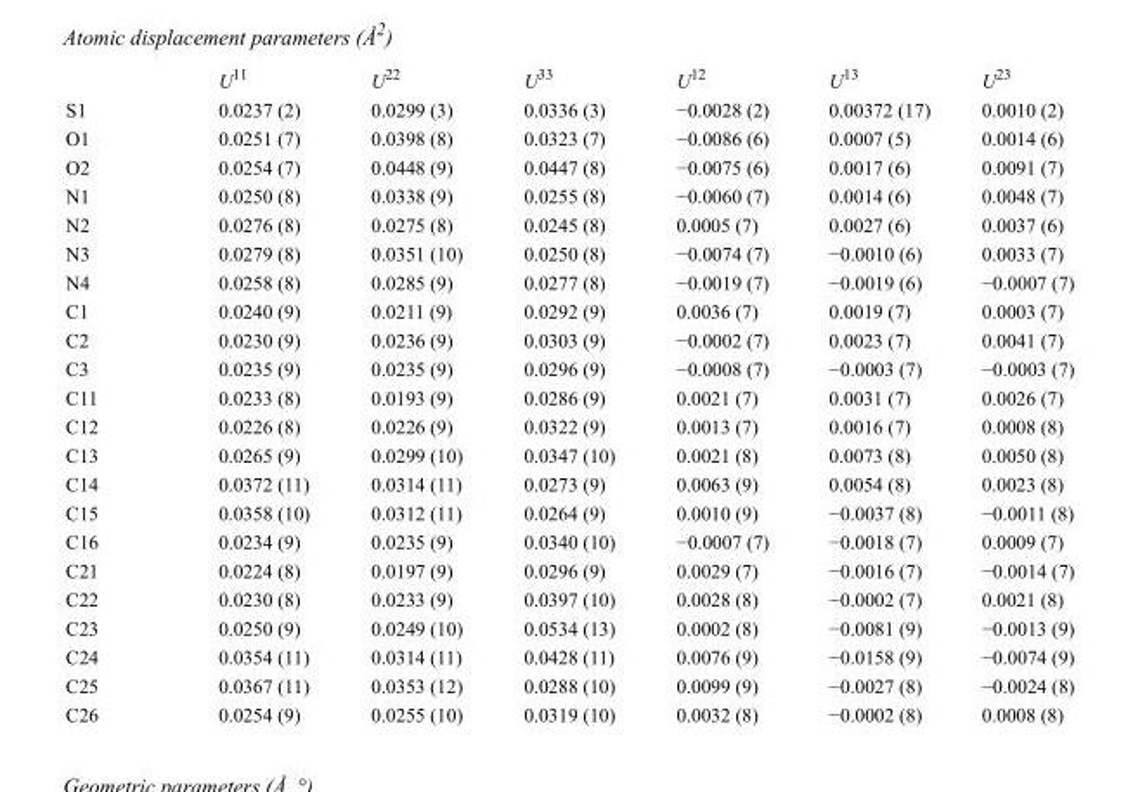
<table><thead><tr><td></td><td>U<sup>11</sup></td><td>U<sup>22</sup></td><td>U<sup>33</sup></td><td>U<sup>12</sup></td><td>U<sup>13</sup></td><td>U<sup>23</sup></td></tr></thead><tbody><tr><td>S1</td><td>0.0237 (2)</td><td>0.0299 (3)</td><td>0.0336 (3)</td><td>−0.0028 (2)</td><td>0.00372 (17)</td><td>0.0010 (2)</td></tr><tr><td>O1</td><td>0.0251 (7)</td><td>0.0398 (8)</td><td>0.0323 (7)</td><td>−0.0086 (6)</td><td>0.0007 (5)</td><td>0.0014 (6)</td></tr><tr><td>O2</td><td>0.0254 (7)</td><td>0.0448 (9)</td><td>0.0447 (8)</td><td>−0.0075 (6)</td><td>0.0017 (6)</td><td>0.0091 (7)</td></tr><tr><td>N1</td><td>0.0250 (8)</td><td>0.0338 (9)</td><td>0.0255 (8)</td><td>−0.0060 (7)</td><td>0.0014 (6)</td><td>0.0048 (7)</td></tr><tr><td>N2</td><td>0.0276 (8)</td><td>0.0275 (8)</td><td>0.0245 (8)</td><td>0.0005 (7)</td><td>0.0027 (6)</td><td>0.0037 (6)</td></tr><tr><td>N3</td><td>0.0279 (8)</td><td>0.0351 (10)</td><td>0.0250 (8)</td><td>−0.0074 (7)</td><td>−0.0010 (6)</td><td>0.0033 (7)</td></tr><tr><td>N4</td><td>0.0258 (8)</td><td>0.0285 (9)</td><td>0.0277 (8)</td><td>−0.0019 (7)</td><td>−0.0019 (6)</td><td>−0.0007 (7)</td></tr><tr><td>C1</td><td>0.0240 (9)</td><td>0.0211 (9)</td><td>0.0292 (9)</td><td>0.0036 (7)</td><td>0.0019 (7)</td><td>0.0003 (7)</td></tr><tr><td>C2</td><td>0.0230 (9)</td><td>0.0236 (9)</td><td>0.0303 (9)</td><td>−0.0002 (7)</td><td>0.0023 (7)</td><td>0.0041 (7)</td></tr><tr><td>C3</td><td>0.0235 (9)</td><td>0.0235 (9)</td><td>0.0296 (9)</td><td>−0.0008 (7)</td><td>−0.0003 (7)</td><td>−0.0003 (7)</td></tr><tr><td>C11</td><td>0.0233 (8)</td><td>0.0193 (9)</td><td>0.0286 (9)</td><td>0.0021 (7)</td><td>0.0031 (7)</td><td>0.0026 (7)</td></tr><tr><td>C12</td><td>0.0226 (8)</td><td>0.0226 (9)</td><td>0.0322 (9)</td><td>0.0013 (7)</td><td>0.0016 (7)</td><td>0.0008 (8)</td></tr><tr><td>C13</td><td>0.0265 (9)</td><td>0.0299 (10)</td><td>0.0347 (10)</td><td>0.0021 (8)</td><td>0.0073 (8)</td><td>0.0050 (8)</td></tr><tr><td>C14</td><td>0.0372 (11)</td><td>0.0314 (11)</td><td>0.0273 (9)</td><td>0.0063 (9)</td><td>0.0054 (8)</td><td>0.0023 (8)</td></tr><tr><td>C15</td><td>0.0358 (10)</td><td>0.0312 (11)</td><td>0.0264 (9)</td><td>0.0010 (9)</td><td>−0.0037 (8)</td><td>−0.0011 (8)</td></tr><tr><td>C16</td><td>0.0234 (9)</td><td>0.0235 (9)</td><td>0.0340 (10)</td><td>−0.0007 (7)</td><td>−0.0018 (7)</td><td>0.0009 (7)</td></tr><tr><td>C21</td><td>0.0224 (8)</td><td>0.0197 (9)</td><td>0.0296 (9)</td><td>0.0029 (7)</td><td>−0.0016 (7)</td><td>−0.0014 (7)</td></tr><tr><td>C22</td><td>0.0230 (8)</td><td>0.0233 (9)</td><td>0.0397 (10)</td><td>0.0028 (8)</td><td>−0.0002 (7)</td><td>0.0021 (8)</td></tr><tr><td>C23</td><td>0.0250 (9)</td><td>0.0249 (10)</td><td>0.0534 (13)</td><td>0.0002 (8)</td><td>−0.0081 (9)</td><td>−0.0013 (9)</td></tr><tr><td>C24</td><td>0.0354 (11)</td><td>0.0314 (11)</td><td>0.0428 (11)</td><td>0.0076 (9)</td><td>−0.0158 (9)</td><td>−0.0074 (9)</td></tr><tr><td>C25</td><td>0.0367 (11)</td><td>0.0353 (12)</td><td>0.0288 (10)</td><td>0.0099 (9)</td><td>−0.0027 (8)</td><td>−0.0024 (8)</td></tr><tr><td>C26</td><td>0.0254 (9)</td><td>0.0255 (10)</td><td>0.0319 (10)</td><td>0.0032 (8)</td><td>−0.0002 (8)</td><td>0.0008 (8)</td></tr></tbody></table>